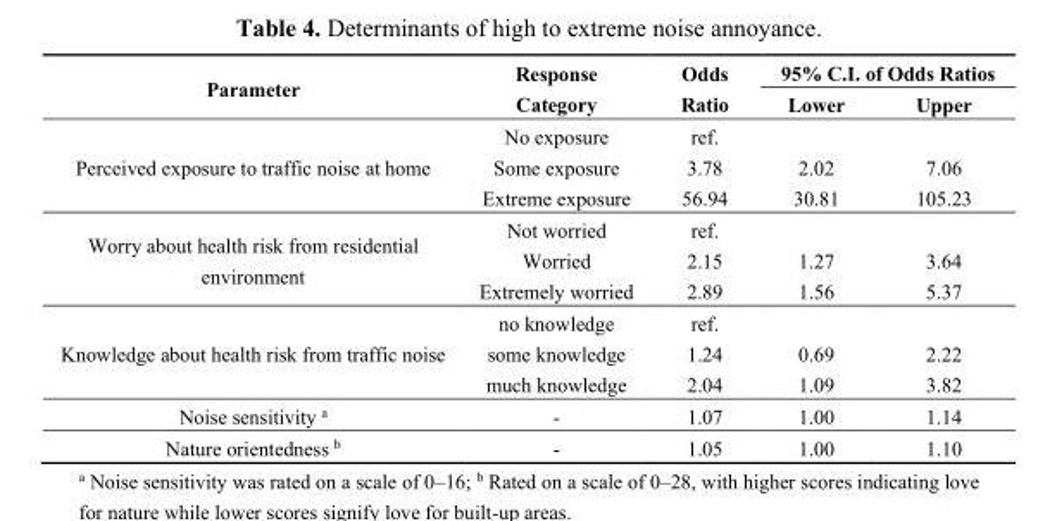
<table><thead><tr><td rowspan="2">Parameter</td><td rowspan="2">Response Category</td><td rowspan="2">Odds Ratio</td><td colspan="2">95% C.I. of Odds Ratios</td></tr><tr><td>Lower</td><td>Upper</td></tr></thead><tbody><tr><td rowspan="3">Perceived exposure to traffic noise at home</td><td>No exposure</td><td>ref.</td><td></td><td></td></tr><tr><td>Some exposure</td><td>3.78</td><td>2.02</td><td>7.06</td></tr><tr><td>Extreme exposure</td><td>56.94</td><td>30.81</td><td>105.23</td></tr><tr><td rowspan="3">Worry about health risk from residential environment</td><td>Not worried</td><td>ref.</td><td></td><td></td></tr><tr><td>Worried</td><td>2.15</td><td>1.27</td><td>3.64</td></tr><tr><td>Extremely worried</td><td>2.89</td><td>1.56</td><td>5.37</td></tr><tr><td rowspan="3">Knowledge about health risk from traffic noise</td><td>no knowledge</td><td>ref.</td><td></td><td></td></tr><tr><td>some knowledge</td><td>1.24</td><td>0.69</td><td>2.22</td></tr><tr><td>much knowledge</td><td>2.04</td><td>1.09</td><td>3.82</td></tr><tr><td>Noise sensitivity <sup>a</sup></td><td>-</td><td>1.07</td><td>1.00</td><td>1.14</td></tr><tr><td>Nature orientedness <sup>b</sup></td><td>-</td><td>1.05</td><td>1.00</td><td>1.10</td></tr></tbody></table>